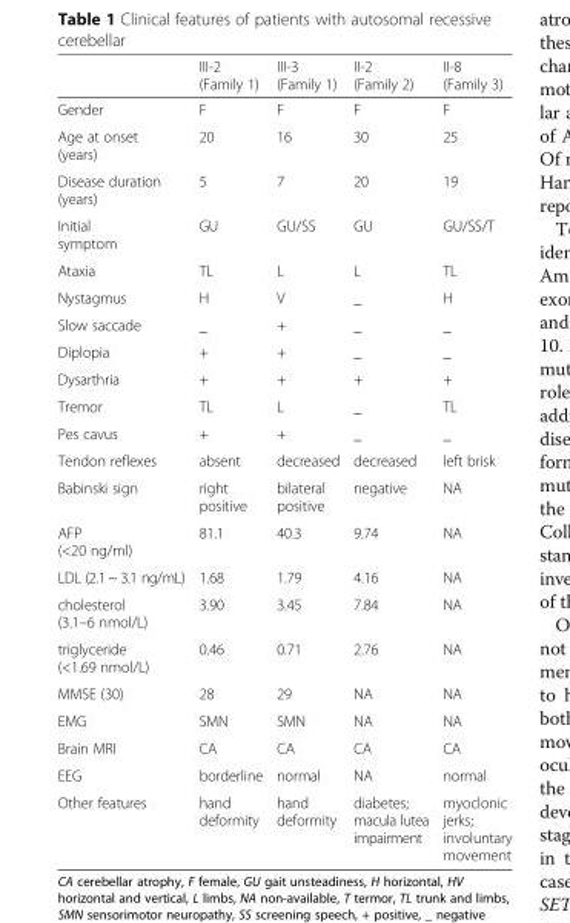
<table><thead><tr><td></td><td>III-2 (Family 1)</td><td>III-3 (Family 1)</td><td>II-2 (Family 2)</td><td>II-8 (Family 3)</td></tr></thead><tbody><tr><td>Gender</td><td>F</td><td>F</td><td>F</td><td>F</td></tr><tr><td>Age at onset (years)</td><td>20</td><td>16</td><td>30</td><td>25</td></tr><tr><td>Disease duration (years)</td><td>5</td><td>7</td><td>20</td><td>19</td></tr><tr><td>Initial symptom</td><td>GU</td><td>GU/SS</td><td>GU</td><td>GU/SS/T</td></tr><tr><td>Ataxia</td><td>TL</td><td>L</td><td>L</td><td>TL</td></tr><tr><td>Nystagmus</td><td>H</td><td>V</td><td>_</td><td>H</td></tr><tr><td>Slow saccade</td><td>_</td><td>+</td><td>_</td><td>_</td></tr><tr><td>Diplopia</td><td>+</td><td>+</td><td>_</td><td>_</td></tr><tr><td>Dysarthria</td><td>+</td><td>+</td><td>+</td><td>+</td></tr><tr><td>Tremor</td><td>TL</td><td>L</td><td>_</td><td>TL</td></tr><tr><td>Pes cavus</td><td>+</td><td>+</td><td>_</td><td>_</td></tr><tr><td>Tendon reflexes</td><td>absent</td><td>decreased</td><td>decreased</td><td>left brisk</td></tr><tr><td>Babinski sign</td><td>right positive</td><td>bilateral positive</td><td>negative</td><td>NA</td></tr><tr><td>AFP (&lt;20 ng/ml)</td><td>81.1</td><td>40.3</td><td>9.74</td><td>NA</td></tr><tr><td>LDL (2.1 ~ 3.1 ng/mL)</td><td>1.68</td><td>1.79</td><td>4.16</td><td>NA</td></tr><tr><td>cholesterol (3.1–6 nmol/L)</td><td>3.90</td><td>3.45</td><td>7.84</td><td>NA</td></tr><tr><td>triglyceride (&lt;1.69 nmol/L)</td><td>0.46</td><td>0.71</td><td>2.76</td><td>NA</td></tr><tr><td>MMSE (30)</td><td>28</td><td>29</td><td>NA</td><td>NA</td></tr><tr><td>EMG</td><td>SMN</td><td>SMN</td><td>NA</td><td>NA</td></tr><tr><td>Brain MRI</td><td>CA</td><td>CA</td><td>CA</td><td>CA</td></tr><tr><td>EEG</td><td>borderline</td><td>normal</td><td>NA</td><td>normal</td></tr><tr><td>Other features</td><td>hand deformity</td><td>hand deformity</td><td>diabetes; macula lutea impairment</td><td>myoclonic jerks; involuntary movement</td></tr></tbody></table>